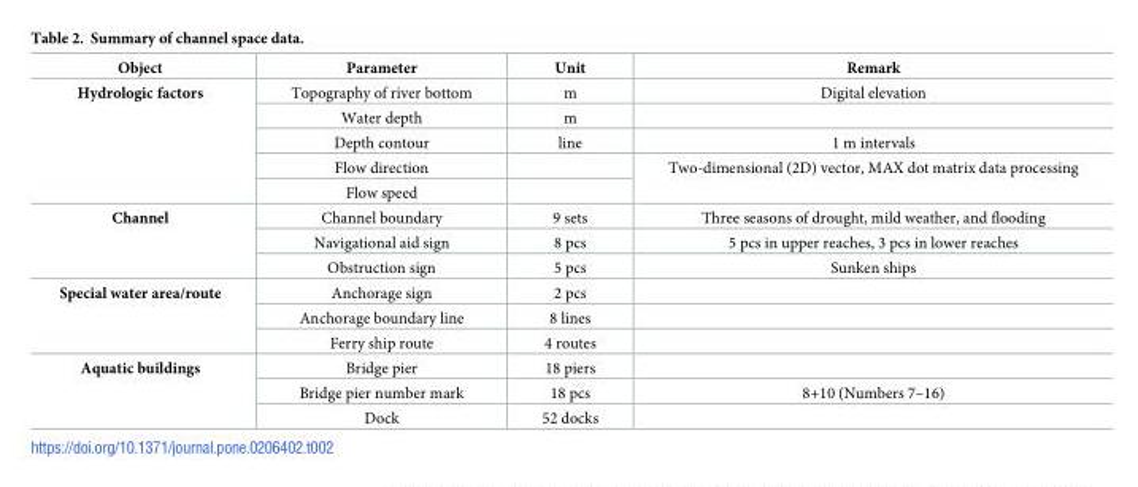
<table><thead><tr><td>Object</td><td>Parameter</td><td>Unit</td><td>Remark</td></tr></thead><tbody><tr><td rowspan="5">Hydrologic factors</td><td>Topography of river bottom</td><td>m</td><td>Digital elevation</td></tr><tr><td>Water depth</td><td>m</td><td></td></tr><tr><td>Depth contour</td><td>line</td><td>1 m intervals</td></tr><tr><td>Flow direction</td><td></td><td rowspan="2">Two-dimensional (2D) vector, MAX dot matrix data processing</td></tr><tr><td>Flow speed</td><td></td></tr><tr><td rowspan="3">Channel</td><td>Channel boundary</td><td>9 sets</td><td>Three seasons of drought, mild weather, and flooding</td></tr><tr><td>Navigational aid sign</td><td>8 pcs</td><td>5 pcs in upper reaches, 3 pcs in lower reaches</td></tr><tr><td>Obstruction sign</td><td>5 pcs</td><td>Sunken ships</td></tr><tr><td rowspan="3">Special water area/route</td><td>Anchorage sign</td><td>2 pcs</td><td></td></tr><tr><td>Anchorage boundary line</td><td>8 lines</td><td></td></tr><tr><td>Ferry ship route</td><td>4 routes</td><td></td></tr><tr><td rowspan="3">Aquatic buildings</td><td>Bridge pier</td><td>18 piers</td><td></td></tr><tr><td>Bridge pier number mark</td><td>18 pcs</td><td>8+10 (Numbers 7–16)</td></tr><tr><td>Dock</td><td>52 docks</td><td></td></tr></tbody></table>